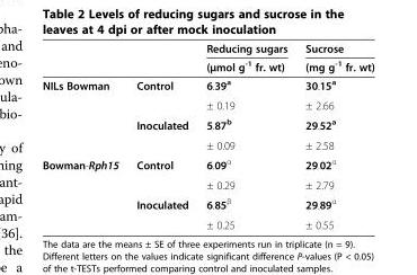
<table><thead><tr><td rowspan="2"></td><td rowspan="2"></td><td rowspan="2">Reducing sugars (μmol g<sup>-1</sup> fr. wt)</td><td rowspan="2">Sucrose (mg g<sup>-1</sup> fr. wt)</td></tr><tr></tr></thead><tbody><tr><td rowspan="4">NILs Bowman</td><td>Control</td><td>6.39<sup>a</sup></td><td>30.15<sup>a</sup></td></tr><tr><td></td><td>± 0.19</td><td>± 2.66</td></tr><tr><td>Inoculated</td><td>5.87<sup>b</sup></td><td>29.52<sup>a</sup></td></tr><tr><td></td><td>± 0.09</td><td>± 2.58</td></tr><tr><td rowspan="4">Bowman-Rph15</td><td>Control</td><td>6.09<sup>α</sup></td><td>29.02<sup>α</sup></td></tr><tr><td></td><td>± 0.29</td><td>± 2.79</td></tr><tr><td>Inoculated</td><td>6.85<sup>β</sup></td><td>29.89<sup>α</sup></td></tr><tr><td></td><td>± 0.25</td><td>± 0.55</td></tr></tbody></table>